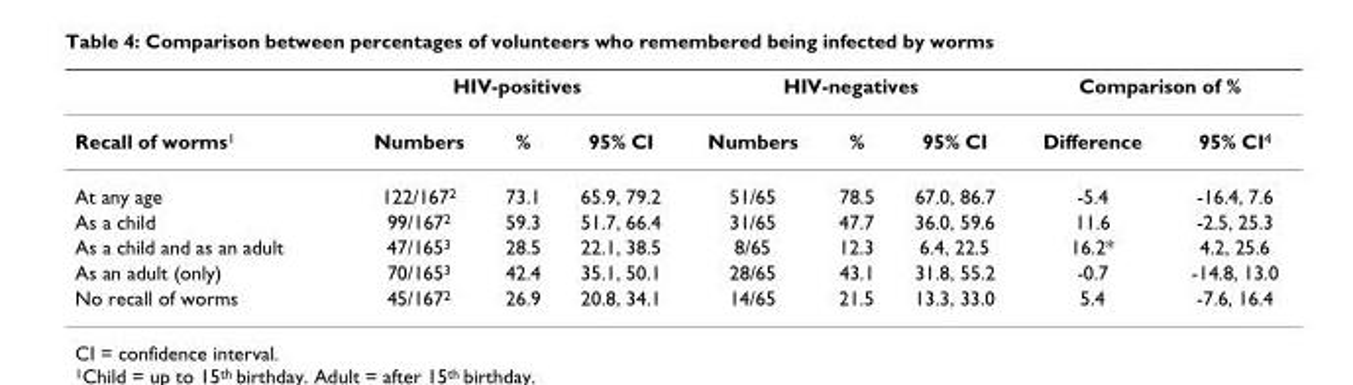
<table><thead><tr><td rowspan="2">Recall of worms<sup>1</sup></td><td colspan="3">HIV-positives</td><td colspan="3">HIV-negatives</td><td colspan="2">Comparison of %</td></tr><tr><td>Numbers</td><td>%</td><td>95% CI</td><td>Numbers</td><td>%</td><td>95% CI</td><td>Difference</td><td>95% CI<sup>4</sup></td></tr></thead><tbody><tr><td>At any age</td><td>122/167<sup>2</sup></td><td>73.1</td><td>65.9, 79.2</td><td>51/65</td><td>78.5</td><td>67.0, 86.7</td><td>-5.4</td><td>-16.4, 7.6</td></tr><tr><td>As a child</td><td>99/167<sup>2</sup></td><td>59.3</td><td>51.7, 66.4</td><td>31/65</td><td>47.7</td><td>36.0, 59.6</td><td>11.6</td><td>-2.5, 25.3</td></tr><tr><td>As a child and as an adult</td><td>47/165<sup>3</sup></td><td>28.5</td><td>22.1, 38.5</td><td>8/65</td><td>12.3</td><td>6.4, 22.5</td><td>16.2*</td><td>4.2, 25.6</td></tr><tr><td>As an adult (only)</td><td>70/165<sup>3</sup></td><td>42.4</td><td>35.1, 50.1</td><td>28/65</td><td>43.1</td><td>31.8, 55.2</td><td>-0.7</td><td>-14.8, 13.0</td></tr><tr><td>No recall of worms</td><td>45/167<sup>2</sup></td><td>26.9</td><td>20.8, 34.1</td><td>14/65</td><td>21.5</td><td>13.3, 33.0</td><td>5.4</td><td>-7.6, 16.4</td></tr></tbody></table>